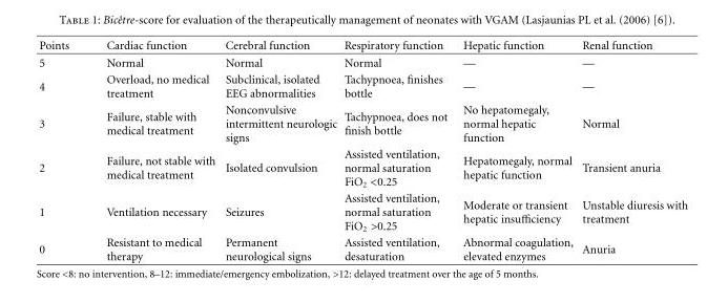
<table><thead><tr><td>Points</td><td>Cardiac function</td><td>Cerebral function</td><td>Respiratory function</td><td>Hepatic function</td><td>Renal function</td></tr></thead><tbody><tr><td>5</td><td>Normal</td><td>Normal</td><td>Normal</td><td>—</td><td>—</td></tr><tr><td>4</td><td>Overload, no medical treatment</td><td>Subclinical, isolated EEG abnormalities</td><td>Tachypnoea, finishes bottle</td><td>—</td><td>—</td></tr><tr><td>3</td><td>Failure, stable with medical treatment</td><td>Nonconvulsive intermittent neurologic signs</td><td>Tachypnoea, does not finish bottle</td><td>No hepatomegaly, normal hepatic function</td><td>Normal</td></tr><tr><td>2</td><td>Failure, not stable with medical treatment</td><td>Isolated convulsion</td><td>Assisted ventilation, normal saturation FiO<sub>2</sub> &lt;0.25</td><td>Hepatomegaly, normal hepatic function</td><td>Transient anuria</td></tr><tr><td>1</td><td>Ventilation necessary</td><td>Seizures</td><td>Assisted ventilation, normal saturation FiO<sub>2</sub> &gt;0.25</td><td>Moderate or transient hepatic insufficiency</td><td>Unstable diuresis with treatment</td></tr><tr><td>0</td><td>Resistant to medical therapy</td><td>Permanent neurological signs</td><td>Assisted ventilation, desaturation</td><td>Abnormal coagulation, elevated enzymes</td><td>Anuria</td></tr></tbody></table>